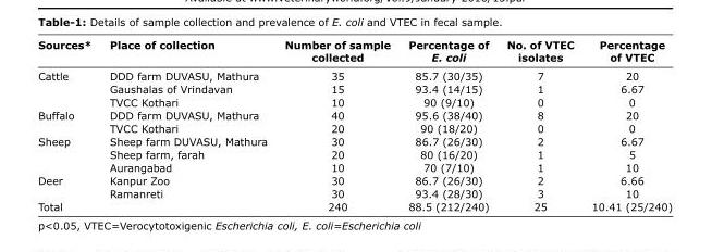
<table><thead><tr><td>Sources*</td><td>Place of collection</td><td>Number of sample collected</td><td>Percentage of E. coli</td><td>No. of VTEC isolates</td><td>Percentage of VTEC</td></tr></thead><tbody><tr><td rowspan="3">Cattle</td><td>DDD farm DUVASU, Mathura</td><td>35</td><td>85.7 (30/35)</td><td>7</td><td>20</td></tr><tr><td>Gaushalas of Vrindavan</td><td>15</td><td>93.4 (14/15)</td><td>1</td><td>6.67</td></tr><tr><td>TVCC Kothari</td><td>10</td><td>90 (9/10)</td><td>0</td><td>0</td></tr><tr><td rowspan="2">Buffalo</td><td>DDD farm DUVASU, Mathura</td><td>40</td><td>95.6 (38/40)</td><td>8</td><td>20</td></tr><tr><td>TVCC Kothari</td><td>20</td><td>90 (18/20)</td><td>0</td><td>0</td></tr><tr><td rowspan="3">Sheep</td><td>Sheep farm DUVASU, Mathura</td><td>30</td><td>86.7 (26/30)</td><td>2</td><td>6.67</td></tr><tr><td>Sheep farm, farah</td><td>20</td><td>80 (16/20)</td><td>1</td><td>5</td></tr><tr><td>Aurangabad</td><td>10</td><td>70 (7/10)</td><td>1</td><td>10</td></tr><tr><td rowspan="2">Deer</td><td>Kanpur Zoo</td><td>30</td><td>86.7 (26/30)</td><td>2</td><td>6.66</td></tr><tr><td>Ramanreti</td><td>30</td><td>93.4 (28/30)</td><td>3</td><td>10</td></tr><tr><td>Total</td><td></td><td>240</td><td>88.5 (212/240)</td><td>25</td><td>10.41 (25/240)</td></tr></tbody></table>